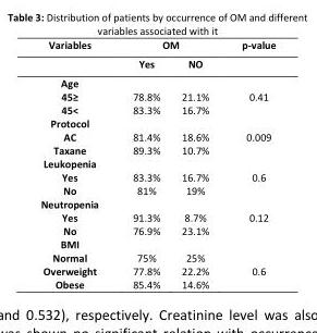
<table><thead><tr><td rowspan="2">Variables</td><td colspan="2">OM</td><td rowspan="2">p-value</td></tr><tr><td>Yes</td><td>NO</td></tr></thead><tbody><tr><td>Age 45≥ 45&lt;</td><td>78.8% 83.3%</td><td>21.1% 16.7%</td><td>0.41</td></tr><tr><td>Protocol AC Taxane</td><td>81.4% 89.3%</td><td>18.6% 10.7%</td><td>0.009</td></tr><tr><td>Leukopenia Yes No</td><td>83.3% 81%</td><td>16.7% 19%</td><td>0.6</td></tr><tr><td>Neutropenia Yes No</td><td>91.3% 76.9%</td><td>8.7% 23.1%</td><td>0.12</td></tr><tr><td>BMI Normal Overweight Obese</td><td>75% 77.8% 85.4%</td><td>25% 22.2% 14.6%</td><td>0.6</td></tr></tbody></table>